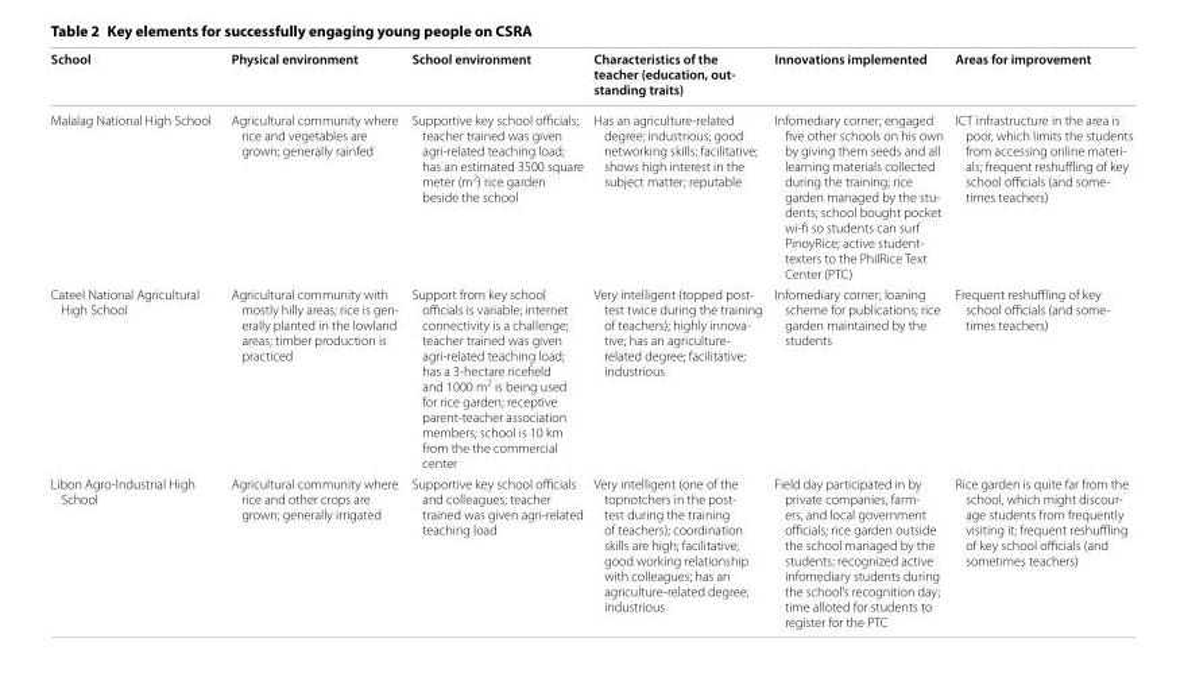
<table><thead><tr><td>School</td><td>Physical environment</td><td>School environment</td><td>Characteristics of the teacher (education, out- standing traits)</td><td>Innovations implemented</td><td>Areas for improvement</td></tr></thead><tbody><tr><td>Malalag National High School</td><td>Agricultural community where rice and vegetables are grown; generally rainfed</td><td>Supportive key school officials; teacher trained was given agri-related teaching load; has an estimated 3500 square meter (m<sup>2</sup>) rice garden beside the school</td><td>Has an agriculture-related degree; industrious; good networking skills; facilitative; shows high interest in the subject matter; reputable</td><td>Infomediary corner; engaged five other schools on his own by giving them seeds and all learning materials collected during the training; rice garden managed by the stu- dents; school bought pocket wi-fi so students can surf PinoyRice; active student- texters to the PhilRice Text Center (PTC)</td><td>ICT infrastructure in the area is poor, which limits the students from accessing online materi- als; frequent reshuffling of key school officials (and some- times teachers)</td></tr><tr><td>Cateel National Agricultural High School</td><td>Agricultural community with mostly hilly areas; rice is gen- erally planted in the lowland areas; timber production is practiced</td><td>Support from key school officials is variable; internet connectivity is a challenge; teacher trained was given agri-related teaching load; has a 3-hectare ricefield and 1000 m<sup>2</sup> is being used for rice garden; receptive parent-teacher association members; school is 10 km from the the commercial center</td><td>Very intelligent (topped post- test twice during the training of teachers); highly innova- tive; has an agriculture- related degree; facilitative; industrious</td><td>Infomediary corner; loaning scheme for publications; rice garden maintained by the students</td><td>Frequent reshuffling of key school officials (and some- times teachers)</td></tr><tr><td>Libon Agro-Industrial High School</td><td>Agricultural community where rice and other crops are grown; generally irrigated</td><td>Supportive key school officials and colleagues; teacher trained was given agri-related teaching load</td><td>Very intelligent (one of the topnotchers in the post- test during the training of teachers); coordination skills are high; facilitative; good working relationship with colleagues; has an agriculture-related degree; industrious</td><td>Field day participated in by private companies, farm- ers, and local government officials; rice garden outside the school managed by the students; recognized active infomediary students during the school’s recognition day; time alloted for students to register for the PTC</td><td>Rice garden is quite far from the school, which might discour- age students from frequently visiting it; frequent reshuffling of key school officials (and sometimes teachers)</td></tr></tbody></table>